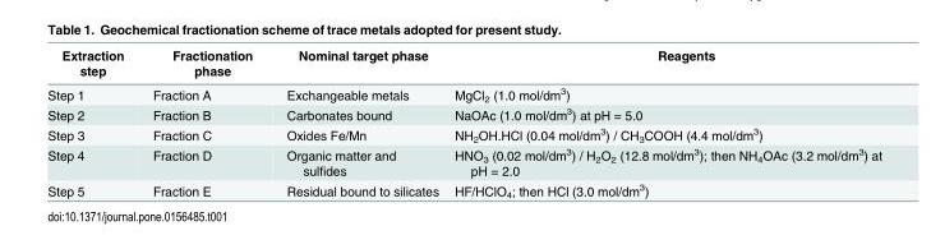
<table><thead><tr><td>Extraction step</td><td>Fractionation phase</td><td>Nominal target phase</td><td>Reagents</td></tr></thead><tbody><tr><td>Step 1</td><td>Fraction A</td><td>Exchangeable metals</td><td>MgCl<sub>2</sub> (1.0 mol/dm<sup>3</sup>)</td></tr><tr><td>Step 2</td><td>Fraction B</td><td>Carbonates bound</td><td>NaOAc (1.0 mol/dm<sup>3</sup>) at pH = 5.0</td></tr><tr><td>Step 3</td><td>Fraction C</td><td>Oxides Fe/Mn</td><td>NH<sub>2</sub>OH.HCl (0.04 mol/dm<sup>3</sup>) / CH<sub>3</sub>COOH (4.4 mol/dm<sup>3</sup>)</td></tr><tr><td>Step 4</td><td>Fraction D</td><td>Organic matter and sulfides</td><td>HNO<sub>3</sub> (0.02 mol/dm<sup>3</sup>) / H<sub>2</sub>O<sub>2</sub> (12.8 mol/dm<sup>3</sup>); then NH<sub>4</sub>OAc (3.2 mol/dm<sup>3</sup>) at pH = 2.0</td></tr><tr><td>Step 5</td><td>Fraction E</td><td>Residual bound to silicates</td><td>HF/HClO<sub>4</sub>; then HCl (3.0 mol/dm<sup>3</sup>)</td></tr></tbody></table>